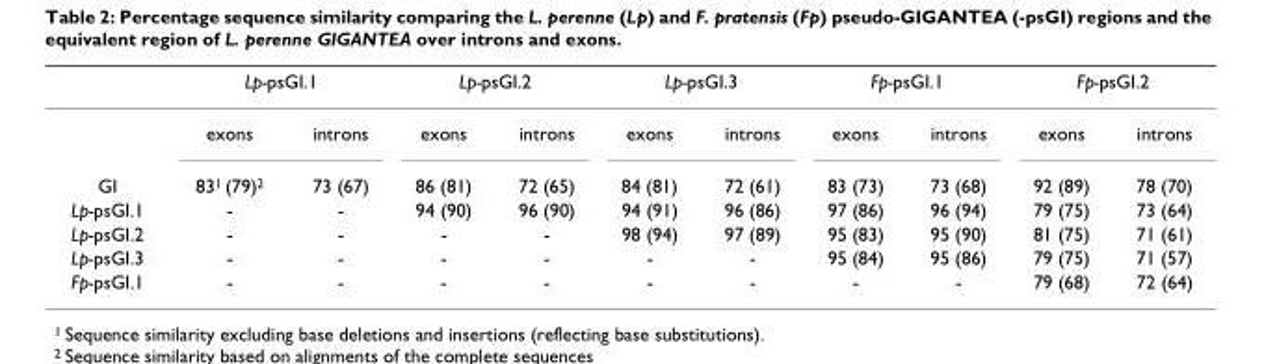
<table><thead><tr><td rowspan="2"></td><td colspan="2">Lp-psGI.1</td><td colspan="2">Lp-psGI.2</td><td colspan="2">Lp-psGI.3</td><td colspan="2">Fp-psGI.1</td><td colspan="2">Fp-psGI.2</td></tr><tr><td>exons</td><td>introns</td><td>exons</td><td>introns</td><td>exons</td><td>introns</td><td>exons</td><td>introns</td><td>exons</td><td>introns</td></tr></thead><tbody><tr><td>GI</td><td>83<sup>1</sup> (79)<sup>2</sup></td><td>73 (67)</td><td>86 (81)</td><td>72 (65)</td><td>84 (81)</td><td>72 (61)</td><td>83 (73)</td><td>73 (68)</td><td>92 (89)</td><td>78 (70)</td></tr><tr><td>Lp-psGI.1</td><td>-</td><td>-</td><td>94 (90)</td><td>96 (90)</td><td>94 (91)</td><td>96 (86)</td><td>97 (86)</td><td>96 (94)</td><td>79 (75)</td><td>73 (64)</td></tr><tr><td>Lp-psGI.2</td><td>-</td><td>-</td><td>-</td><td>-</td><td>98 (94)</td><td>97 (89)</td><td>95 (83)</td><td>95 (90)</td><td>81 (75)</td><td>71 (61)</td></tr><tr><td>Lp-psGI.3</td><td>-</td><td>-</td><td>-</td><td>-</td><td>-</td><td>-</td><td>95 (84)</td><td>95 (86)</td><td>79 (75)</td><td>71 (57)</td></tr><tr><td>Fp-psGI.1</td><td>-</td><td>-</td><td>-</td><td>-</td><td>-</td><td>-</td><td>-</td><td>-</td><td>79 (68)</td><td>72 (64)</td></tr></tbody></table>